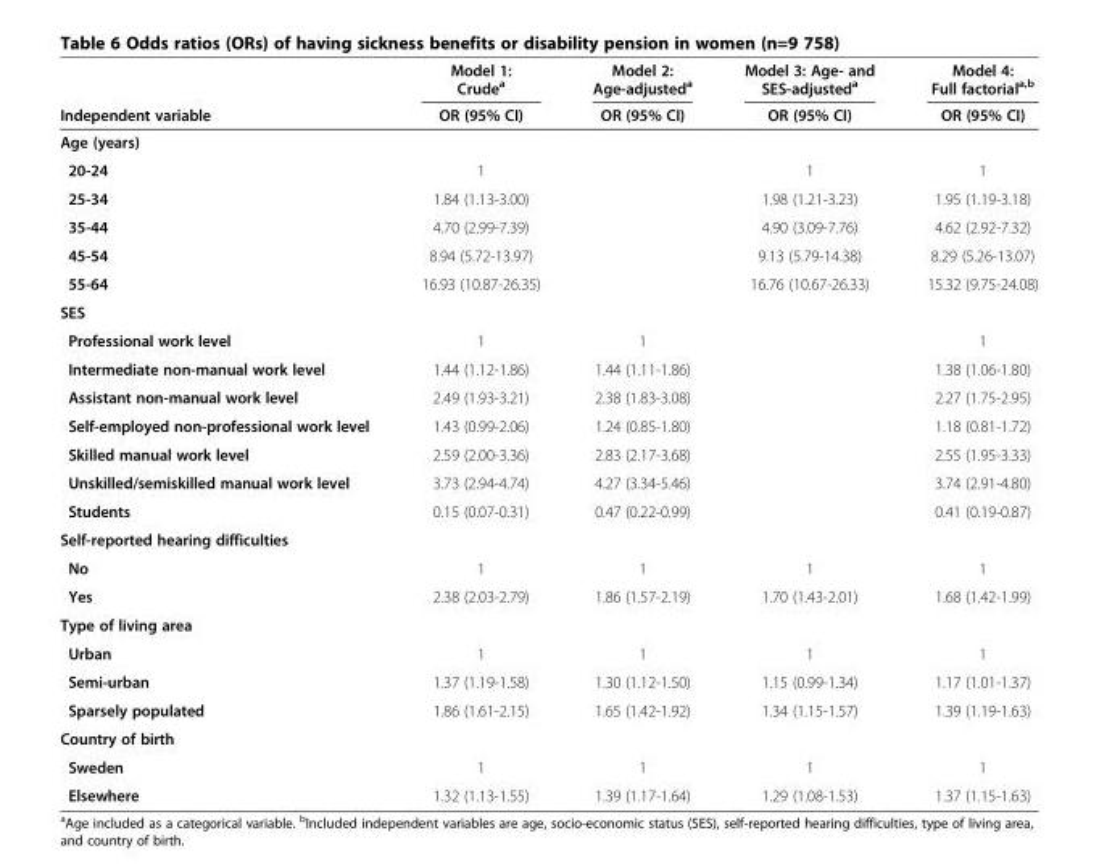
<table><thead><tr><td rowspan="2">Independent variable</td><td rowspan="2">Model 1: Crude<sup>a</sup> OR (95% CI)</td><td rowspan="2">Model 2: Age-adjusted<sup>a</sup> OR (95% CI)</td><td rowspan="2">Model 3: Age- and SES-adjusted<sup>a</sup> OR (95% CI)</td><td rowspan="2">Model 4: Full factorial<sup>a,b</sup> OR (95% CI)</td></tr><tr></tr></thead><tbody><tr><td colspan="5">Age (years)</td></tr><tr><td>20-24</td><td>1</td><td></td><td>1</td><td>1</td></tr><tr><td>25-34</td><td>1.84 (1.13-3.00)</td><td></td><td>1.98 (1.21-3.23)</td><td>1.95 (1.19-3.18)</td></tr><tr><td>35-44</td><td>4.70 (2.99-7.39)</td><td></td><td>4.90 (3.09-7.76)</td><td>4.62 (2.92-7.32)</td></tr><tr><td>45-54</td><td>8.94 (5.72-13.97)</td><td></td><td>9.13 (5.79-14.38)</td><td>8.29 (5.26-13.07)</td></tr><tr><td>55-64</td><td>16.93 (10.87-26.35)</td><td></td><td>16.76 (10.67-26.33)</td><td>15.32 (9.75-24.08)</td></tr><tr><td colspan="5">SES</td></tr><tr><td>Professional work level</td><td>1</td><td>1</td><td></td><td>1</td></tr><tr><td>Intermediate non-manual work level</td><td>1.44 (1.12-1.86)</td><td>1.44 (1.11-1.86)</td><td></td><td>1.38 (1.06-1.80)</td></tr><tr><td>Assistant non-manual work level</td><td>2.49 (1.93-3.21)</td><td>2.38 (1.83-3.08)</td><td></td><td>2.27 (1.75-2.95)</td></tr><tr><td>Self-employed non-professional work level</td><td>1.43 (0.99-2.06)</td><td>1.24 (0.85-1.80)</td><td></td><td>1.18 (0.81-1.72)</td></tr><tr><td>Skilled manual work level</td><td>2.59 (2.00-3.36)</td><td>2.83 (2.17-3.68)</td><td></td><td>2.55 (1.95-3.33)</td></tr><tr><td>Unskilled/semiskilled manual work level</td><td>3.73 (2.94-4.74)</td><td>4.27 (3.34-5.46)</td><td></td><td>3.74 (2.91-4.80)</td></tr><tr><td>Students</td><td>0.15 (0.07-0.31)</td><td>0.47 (0.22-0.99)</td><td></td><td>0.41 (0.19-0.87)</td></tr><tr><td colspan="5">Self-reported hearing difficulties</td></tr><tr><td>No</td><td>1</td><td>1</td><td>1</td><td>1</td></tr><tr><td>Yes</td><td>2.38 (2.03-2.79)</td><td>1.86 (1.57-2.19)</td><td>1.70 (1.43-2.01)</td><td>1.68 (1.42-1.99)</td></tr><tr><td colspan="5">Type of living area</td></tr><tr><td>Urban</td><td>1</td><td>1</td><td>1</td><td>1</td></tr><tr><td>Semi-urban</td><td>1.37 (1.19-1.58)</td><td>1.30 (1.12-1.50)</td><td>1.15 (0.99-1.34)</td><td>1.17 (1.01-1.37)</td></tr><tr><td>Sparsely populated</td><td>1.86 (1.61-2.15)</td><td>1.65 (1.42-1.92)</td><td>1.34 (1.15-1.57)</td><td>1.39 (1.19-1.63)</td></tr><tr><td colspan="5">Country of birth</td></tr><tr><td>Sweden</td><td>1</td><td>1</td><td>1</td><td>1</td></tr><tr><td>Elsewhere</td><td>1.32 (1.13-1.55)</td><td>1.39 (1.17-1.64)</td><td>1.29 (1.08-1.53)</td><td>1.37 (1.15-1.63)</td></tr></tbody></table>